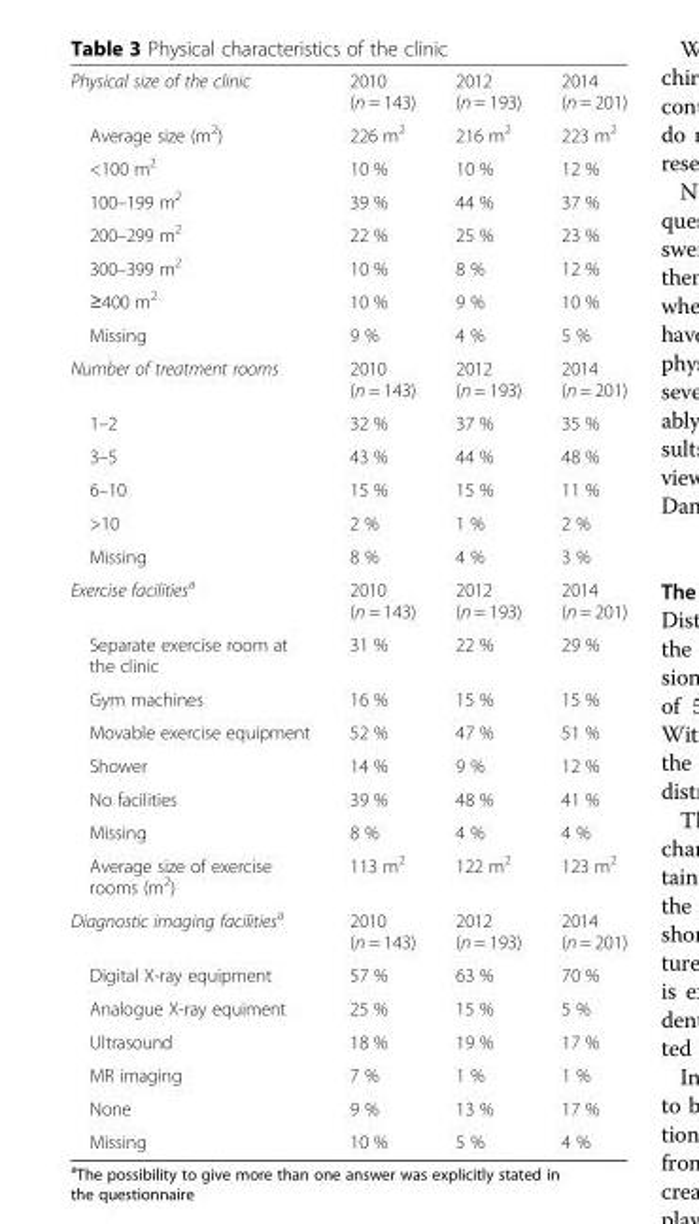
<table><tbody><tr><td>Physical size of the clinic</td><td>2010 (n = 143)</td><td>2012 (n = 193)</td><td>2014 (n = 201)</td></tr><tr><td>Average size (m<sup>2</sup>)</td><td>226 m<sup>2</sup></td><td>216 m<sup>2</sup></td><td>223 m<sup>2</sup></td></tr><tr><td>&lt;100 m<sup>2</sup></td><td>10 %</td><td>10 %</td><td>12 %</td></tr><tr><td>100–199 m<sup>2</sup></td><td>39 %</td><td>44 %</td><td>37 %</td></tr><tr><td>200–299 m<sup>2</sup></td><td>22 %</td><td>25 %</td><td>23 %</td></tr><tr><td>300–399 m<sup>2</sup></td><td>10 %</td><td>8 %</td><td>12 %</td></tr><tr><td>≥400 m<sup>2</sup></td><td>10 %</td><td>9 %</td><td>10 %</td></tr><tr><td>Missing</td><td>9 %</td><td>4 %</td><td>5 %</td></tr><tr><td>Number of treatment rooms</td><td>2010 (n = 143)</td><td>2012 (n = 193)</td><td>2014 (n = 201)</td></tr><tr><td>1–2</td><td>32 %</td><td>37 %</td><td>35 %</td></tr><tr><td>3–5</td><td>43 %</td><td>44 %</td><td>48 %</td></tr><tr><td>6–10</td><td>15 %</td><td>15 %</td><td>11 %</td></tr><tr><td>&gt;10</td><td>2 %</td><td>1 %</td><td>2 %</td></tr><tr><td>Missing</td><td>8 %</td><td>4 %</td><td>3 %</td></tr><tr><td>Exercise facilities<sup>a</sup></td><td>2010 (n = 143)</td><td>2012 (n = 193)</td><td>2014 (n = 201)</td></tr><tr><td>Separate exercise room at the clinic</td><td>31 %</td><td>22 %</td><td>29 %</td></tr><tr><td>Gym machines</td><td>16 %</td><td>15 %</td><td>15 %</td></tr><tr><td>Movable exercise equipment</td><td>52 %</td><td>47 %</td><td>51 %</td></tr><tr><td>Shower</td><td>14 %</td><td>9 %</td><td>12 %</td></tr><tr><td>No facilities</td><td>39 %</td><td>48 %</td><td>41 %</td></tr><tr><td>Missing</td><td>8 %</td><td>4 %</td><td>4 %</td></tr><tr><td>Average size of exercise rooms (m<sup>2</sup>)</td><td>113 m<sup>2</sup></td><td>122 m<sup>2</sup></td><td>123 m<sup>2</sup></td></tr><tr><td>Diagnostic imaging facilities<sup>a</sup></td><td>2010 (n = 143)</td><td>2012 (n = 193)</td><td>2014 (n = 201)</td></tr><tr><td>Digital X-ray equipment</td><td>57 %</td><td>63 %</td><td>70 %</td></tr><tr><td>Analogue X-ray equiment</td><td>25 %</td><td>15 %</td><td>5 %</td></tr><tr><td>Ultrasound</td><td>18 %</td><td>19 %</td><td>17 %</td></tr><tr><td>MR imaging</td><td>7 %</td><td>1 %</td><td>1 %</td></tr><tr><td>None</td><td>9 %</td><td>13 %</td><td>17 %</td></tr><tr><td>Missing</td><td>10 %</td><td>5 %</td><td>4 %</td></tr></tbody></table>